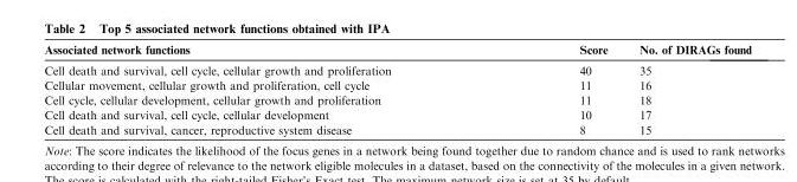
<table><thead><tr><td>Associated network functions</td><td>Score</td><td>No. of DIRAGs found</td></tr></thead><tbody><tr><td>Cell death and survival, cell cycle, cellular growth and proliferation</td><td>40</td><td>35</td></tr><tr><td>Cellular movement, cellular growth and proliferation, cell cycle</td><td>11</td><td>16</td></tr><tr><td>Cell cycle, cellular development, cellular growth and proliferation</td><td>11</td><td>18</td></tr><tr><td>Cell death and survival, cell cycle, cellular development</td><td>10</td><td>17</td></tr><tr><td>Cell death and survival, cancer, reproductive system disease</td><td>8</td><td>15</td></tr></tbody></table>